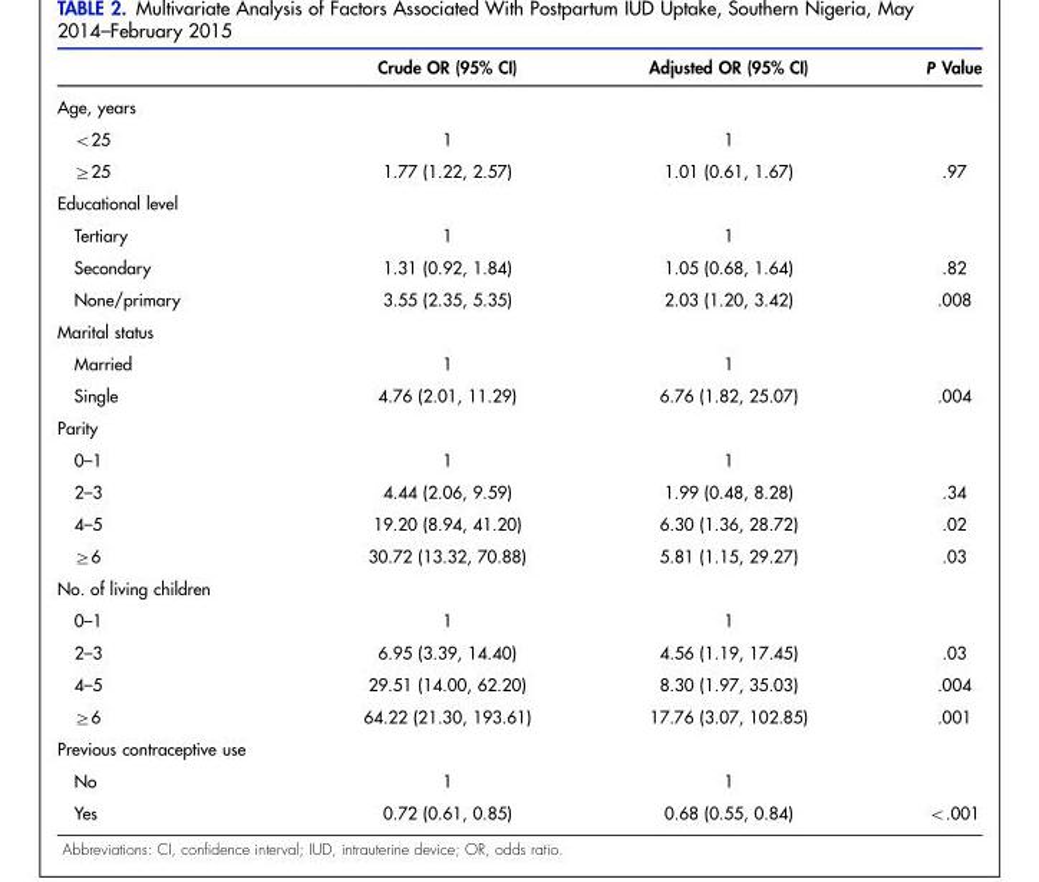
<table><thead><tr><td></td><td>Crude OR (95% CI)</td><td>Adjusted OR (95% CI)</td><td>P Value</td></tr></thead><tbody><tr><td colspan="4">Age, years</td></tr><tr><td>&lt;25</td><td>1</td><td>1</td><td></td></tr><tr><td>≥25</td><td>1.77 (1.22, 2.57)</td><td>1.01 (0.61, 1.67)</td><td>.97</td></tr><tr><td colspan="4">Educational level</td></tr><tr><td>Tertiary</td><td>1</td><td>1</td><td></td></tr><tr><td>Secondary</td><td>1.31 (0.92, 1.84)</td><td>1.05 (0.68, 1.64)</td><td>.82</td></tr><tr><td>None/primary</td><td>3.55 (2.35, 5.35)</td><td>2.03 (1.20, 3.42)</td><td>.008</td></tr><tr><td colspan="4">Marital status</td></tr><tr><td>Married</td><td>1</td><td>1</td><td></td></tr><tr><td>Single</td><td>4.76 (2.01, 11.29)</td><td>6.76 (1.82, 25.07)</td><td>.004</td></tr><tr><td colspan="4">Parity</td></tr><tr><td>0–1</td><td>1</td><td>1</td><td></td></tr><tr><td>2–3</td><td>4.44 (2.06, 9.59)</td><td>1.99 (0.48, 8.28)</td><td>.34</td></tr><tr><td>4–5</td><td>19.20 (8.94, 41.20)</td><td>6.30 (1.36, 28.72)</td><td>.02</td></tr><tr><td>≥6</td><td>30.72 (13.32, 70.88)</td><td>5.81 (1.15, 29.27)</td><td>.03</td></tr><tr><td colspan="4">No. of living children</td></tr><tr><td>0–1</td><td>1</td><td>1</td><td></td></tr><tr><td>2–3</td><td>6.95 (3.39, 14.40)</td><td>4.56 (1.19, 17.45)</td><td>.03</td></tr><tr><td>4–5</td><td>29.51 (14.00, 62.20)</td><td>8.30 (1.97, 35.03)</td><td>.004</td></tr><tr><td>≥6</td><td>64.22 (21.30, 193.61)</td><td>17.76 (3.07, 102.85)</td><td>.001</td></tr><tr><td colspan="4">Previous contraceptive use</td></tr><tr><td>No</td><td>1</td><td>1</td><td></td></tr><tr><td>Yes</td><td>0.72 (0.61, 0.85)</td><td>0.68 (0.55, 0.84)</td><td>&lt;.001</td></tr></tbody></table>